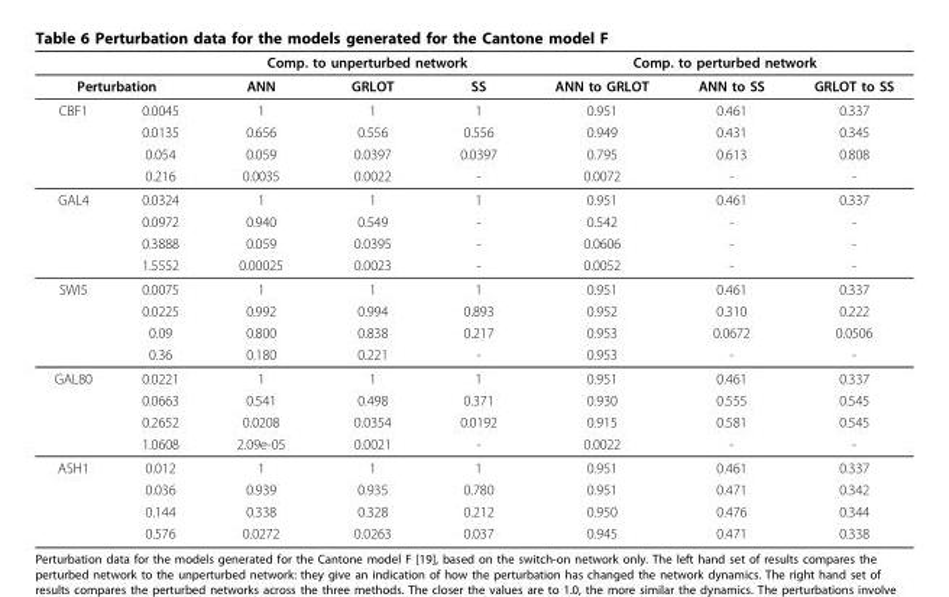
<table><thead><tr><td></td><td></td><td colspan="3">Comp. to unperturbed network</td><td colspan="3">Comp. to perturbed network</td></tr><tr><td colspan="2">Perturbation</td><td>ANN</td><td>GRLOT</td><td>SS</td><td>ANN to GRLOT</td><td>ANN to SS</td><td>GRLOT to SS</td></tr></thead><tbody><tr><td rowspan="4">CBF1</td><td>0.0045</td><td>1</td><td>1</td><td>1</td><td>0.951</td><td>0.461</td><td>0.337</td></tr><tr><td>0.0135</td><td>0.656</td><td>0.556</td><td>0.556</td><td>0.949</td><td>0.431</td><td>0.345</td></tr><tr><td>0.054</td><td>0.059</td><td>0.0397</td><td>0.0397</td><td>0.795</td><td>0.613</td><td>0.808</td></tr><tr><td>0.216</td><td>0.0035</td><td>0.0022</td><td>-</td><td>0.0072</td><td>-</td><td>-</td></tr><tr><td rowspan="4">GAL4</td><td>0.0324</td><td>1</td><td>1</td><td>1</td><td>0.951</td><td>0.461</td><td>0.337</td></tr><tr><td>0.0972</td><td>0.940</td><td>0.549</td><td>-</td><td>0.542</td><td>-</td><td>-</td></tr><tr><td>0.3888</td><td>0.059</td><td>0.0395</td><td>-</td><td>0.0606</td><td>-</td><td>-</td></tr><tr><td>1.5552</td><td>0.00025</td><td>0.0023</td><td>-</td><td>0.0052</td><td>-</td><td>-</td></tr><tr><td rowspan="4">SWI5</td><td>0.0075</td><td>1</td><td>1</td><td>1</td><td>0.951</td><td>0.461</td><td>0.337</td></tr><tr><td>0.0225</td><td>0.992</td><td>0.994</td><td>0.893</td><td>0.952</td><td>0.310</td><td>0.222</td></tr><tr><td>0.09</td><td>0.800</td><td>0.838</td><td>0.217</td><td>0.953</td><td>0.0672</td><td>0.0506</td></tr><tr><td>0.36</td><td>0.180</td><td>0.221</td><td>-</td><td>0.953</td><td>-</td><td>-</td></tr><tr><td rowspan="4">GAL80</td><td>0.0221</td><td>1</td><td>1</td><td>1</td><td>0.951</td><td>0.461</td><td>0.337</td></tr><tr><td>0.0663</td><td>0.541</td><td>0.498</td><td>0.371</td><td>0.930</td><td>0.555</td><td>0.545</td></tr><tr><td>0.2652</td><td>0.0208</td><td>0.0354</td><td>0.0192</td><td>0.915</td><td>0.581</td><td>0.545</td></tr><tr><td>1.0608</td><td>2.09e-05</td><td>0.0021</td><td>-</td><td>0.0022</td><td>-</td><td>-</td></tr><tr><td rowspan="4">ASH1</td><td>0.012</td><td>1</td><td>1</td><td>1</td><td>0.951</td><td>0.461</td><td>0.337</td></tr><tr><td>0.036</td><td>0.939</td><td>0.935</td><td>0.780</td><td>0.951</td><td>0.471</td><td>0.342</td></tr><tr><td>0.144</td><td>0.338</td><td>0.328</td><td>0.212</td><td>0.950</td><td>0.476</td><td>0.344</td></tr><tr><td>0.576</td><td>0.0272</td><td>0.0263</td><td>0.037</td><td>0.945</td><td>0.471</td><td>0.338</td></tr></tbody></table>